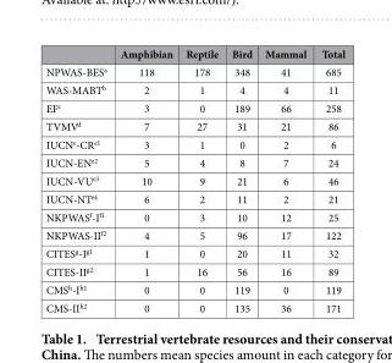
<table><thead><tr><td></td><td>Amphibian</td><td>Reptile</td><td>Bird</td><td>Mammal</td><td>Total</td></tr></thead><tbody><tr><td>NPWAS-BES<sup>a</sup></td><td>118</td><td>178</td><td>348</td><td>41</td><td>685</td></tr><tr><td>WAS-MABT<sup>b</sup></td><td>2</td><td>1</td><td>4</td><td>4</td><td>11</td></tr><tr><td>EF<sup>c</sup></td><td>3</td><td>0</td><td>189</td><td>66</td><td>258</td></tr><tr><td>TVMV<sup>d</sup></td><td>7</td><td>27</td><td>31</td><td>21</td><td>86</td></tr><tr><td>IUCN<sup>e</sup>-CR<sup>e1</sup></td><td>3</td><td>1</td><td>0</td><td>2</td><td>6</td></tr><tr><td>IUCN-EN<sup>e2</sup></td><td>5</td><td>4</td><td>8</td><td>7</td><td>24</td></tr><tr><td>IUCN-VU<sup>e3</sup></td><td>10</td><td>9</td><td>21</td><td>6</td><td>46</td></tr><tr><td>IUCN-NT<sup>e4</sup></td><td>6</td><td>2</td><td>11</td><td>2</td><td>21</td></tr><tr><td>NKPWAS<sup>f</sup>-I<sup>f1</sup></td><td>0</td><td>3</td><td>10</td><td>12</td><td>25</td></tr><tr><td>NKPWAS-II<sup>f2</sup></td><td>4</td><td>5</td><td>96</td><td>17</td><td>122</td></tr><tr><td>CITES<sup>g</sup>-I<sup>g1</sup></td><td>1</td><td>0</td><td>20</td><td>11</td><td>32</td></tr><tr><td>CITES-II<sup>g2</sup></td><td>1</td><td>16</td><td>56</td><td>16</td><td>89</td></tr><tr><td>CMS<sup>h</sup>-I<sup>h1</sup></td><td>0</td><td>0</td><td>119</td><td>0</td><td>119</td></tr><tr><td>CMS-II<sup>h2</sup></td><td>0</td><td>0</td><td>135</td><td>36</td><td>171</td></tr></tbody></table>